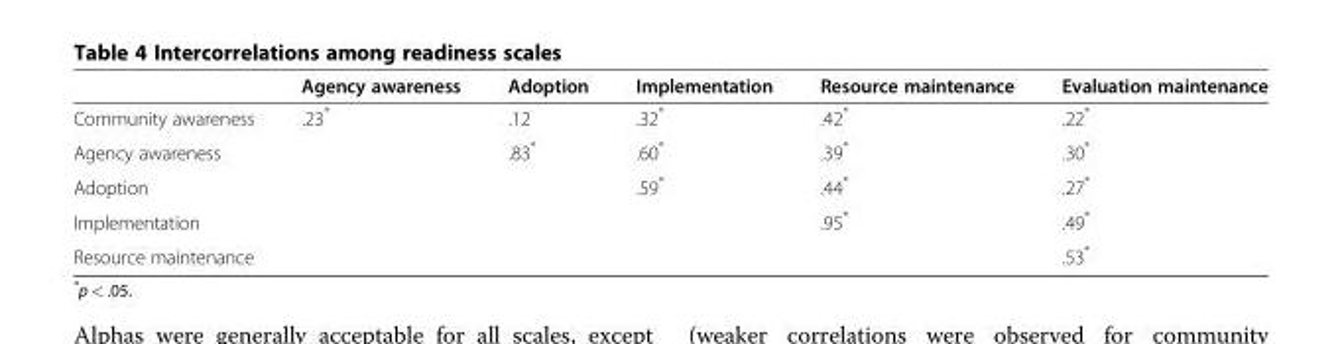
<table><thead><tr><td></td><td>Agency awareness</td><td>Adoption</td><td>Implementation</td><td>Resource maintenance</td><td>Evaluation maintenance</td></tr></thead><tbody><tr><td>Community awareness</td><td>.23*</td><td>.12</td><td>.32*</td><td>.42*</td><td>.22*</td></tr><tr><td>Agency awareness</td><td></td><td>.83*</td><td>.60*</td><td>.39*</td><td>.30*</td></tr><tr><td>Adoption</td><td></td><td></td><td>.59*</td><td>.44*</td><td>.27*</td></tr><tr><td>Implementation</td><td></td><td></td><td></td><td>.95*</td><td>.49*</td></tr><tr><td>Resource maintenance</td><td></td><td></td><td></td><td></td><td>.53*</td></tr></tbody></table>